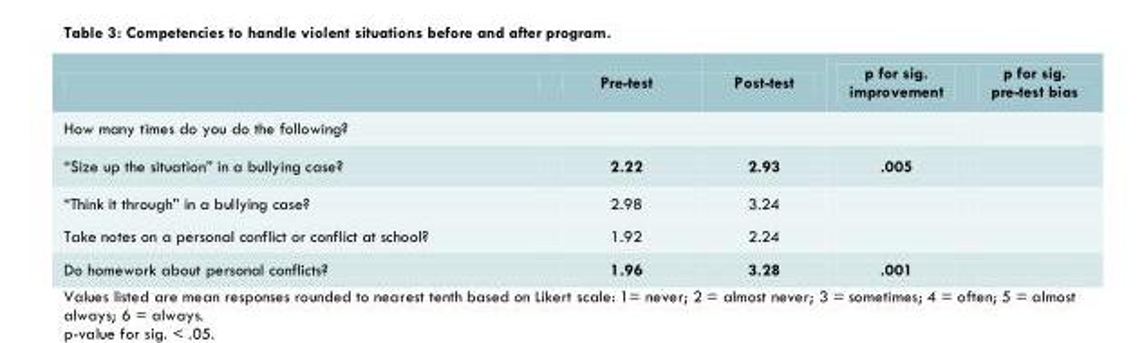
<table><thead><tr><td></td><td>Pre-test</td><td>Post-test</td><td>p for sig. improvement</td><td>p for sig. pre-test bias</td></tr></thead><tbody><tr><td colspan="5">How many times do you do the following?</td></tr><tr><td>“Size up the situation” in a bullying case?</td><td>2.22</td><td>2.93</td><td>.005</td><td></td></tr><tr><td>“Think it through” in a bullying case?</td><td>2.98</td><td>3.24</td><td></td><td></td></tr><tr><td>Take notes on a personal conflict or conflict at school?</td><td>1.92</td><td>2.24</td><td></td><td></td></tr><tr><td>Do homework about personal conflicts?</td><td>1.96</td><td>3.28</td><td>.001</td><td></td></tr></tbody></table>